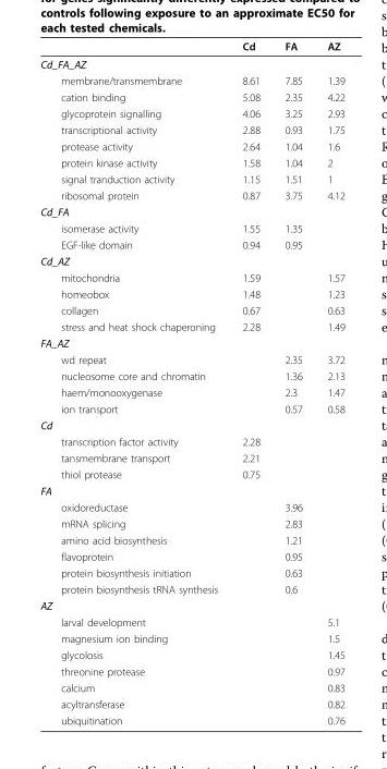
<table><thead><tr><td></td><td>Cd</td><td>FA</td><td>AZ</td></tr></thead><tbody><tr><td colspan="4">Cd_FA_AZ</td></tr><tr><td>membrane/transmembrane</td><td>8.61</td><td>7.85</td><td>1.39</td></tr><tr><td>cation binding</td><td>5.08</td><td>2.35</td><td>4.22</td></tr><tr><td>glycoprotein signalling</td><td>4.06</td><td>3.25</td><td>2.93</td></tr><tr><td>transcriptional activity</td><td>2.88</td><td>0.93</td><td>1.75</td></tr><tr><td>protease activity</td><td>2.64</td><td>1.04</td><td>1.6</td></tr><tr><td>protein kinase activity</td><td>1.58</td><td>1.04</td><td>2</td></tr><tr><td>signal tranduction activity</td><td>1.15</td><td>1.51</td><td>1</td></tr><tr><td>ribosomal protein</td><td>0.87</td><td>3.75</td><td>4.12</td></tr><tr><td colspan="4">Cd_FA</td></tr><tr><td>isomerase activity</td><td>1.55</td><td>1.35</td><td></td></tr><tr><td>EGF-like domain</td><td>0.94</td><td>0.95</td><td></td></tr><tr><td colspan="4">Cd_AZ</td></tr><tr><td>mitochondria</td><td>1.59</td><td></td><td>1.57</td></tr><tr><td>homeobox</td><td>1.48</td><td></td><td>1.23</td></tr><tr><td>collagen</td><td>0.67</td><td></td><td>0.63</td></tr><tr><td>stress and heat shock chaperoning</td><td>2.28</td><td></td><td>1.49</td></tr><tr><td colspan="4">FA_AZ</td></tr><tr><td>wd repeat</td><td></td><td>2.35</td><td>3.72</td></tr><tr><td>nucleosome core and chromatin</td><td></td><td>1.36</td><td>2.13</td></tr><tr><td>haem/monooxygenase</td><td></td><td>2.3</td><td>1.47</td></tr><tr><td>ion transport</td><td></td><td>0.57</td><td>0.58</td></tr><tr><td colspan="4">Cd</td></tr><tr><td>transcription factor activity</td><td>2.28</td><td></td><td></td></tr><tr><td>tansmembrane transport</td><td>2.21</td><td></td><td></td></tr><tr><td>thiol protease</td><td>0.75</td><td></td><td></td></tr><tr><td colspan="4">FA</td></tr><tr><td>oxidoreductase</td><td></td><td>3.96</td><td></td></tr><tr><td>mRNA splicing</td><td></td><td>2.83</td><td></td></tr><tr><td>amino acid biosynthesis</td><td></td><td>1.21</td><td></td></tr><tr><td>flavoprotein</td><td></td><td>0.95</td><td></td></tr><tr><td>protein biosynthesis initiation</td><td></td><td>0.63</td><td></td></tr><tr><td>protein biosynthesis tRNA synthesis</td><td></td><td>0.6</td><td></td></tr><tr><td colspan="4">AZ</td></tr><tr><td>larval development</td><td></td><td></td><td>5.1</td></tr><tr><td>magnesium ion binding</td><td></td><td></td><td>1.5</td></tr><tr><td>glycolosis</td><td></td><td></td><td>1.45</td></tr><tr><td>threonine protease</td><td></td><td></td><td>0.97</td></tr><tr><td>calcium</td><td></td><td></td><td>0.83</td></tr><tr><td>acyltransferase</td><td></td><td></td><td>0.82</td></tr><tr><td>ubiquitination</td><td></td><td></td><td>0.76</td></tr></tbody></table>